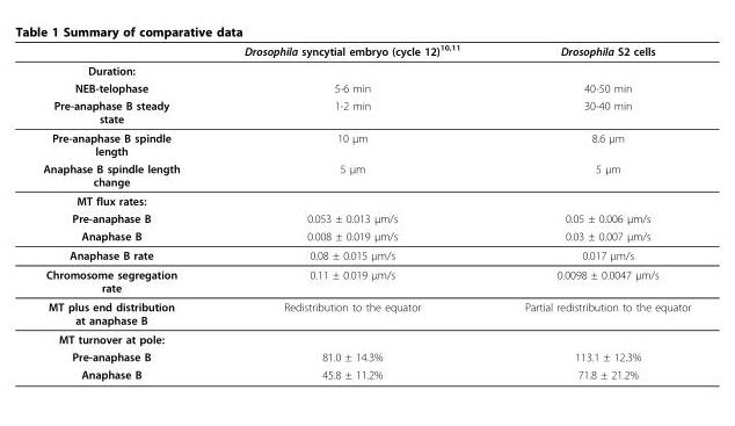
<table><thead><tr><td></td><td>Drosophila syncytial embryo (cycle 12)<sup>10,11</sup></td><td>Drosophila S2 cells</td></tr></thead><tbody><tr><td colspan="3">Duration:</td></tr><tr><td>NEB-telophase</td><td>5-6 min</td><td>40-50 min</td></tr><tr><td>Pre-anaphase B steady state</td><td>1-2 min</td><td>30-40 min</td></tr><tr><td>Pre-anaphase B spindle length</td><td>10 μm</td><td>8.6 μm</td></tr><tr><td>Anaphase B spindle length change</td><td>5 μm</td><td>5 μm</td></tr><tr><td colspan="3">MT flux rates:</td></tr><tr><td>Pre-anaphase B</td><td>0.053 ± 0.013 μm/s</td><td>0.05 ± 0.006 μm/s</td></tr><tr><td>Anaphase B</td><td>0.008 ± 0.019 μm/s</td><td>0.03 ± 0.007 μm/s</td></tr><tr><td>Anaphase B rate</td><td>0.08 ± 0.015 μm/s</td><td>0.017 μm/s</td></tr><tr><td>Chromosome segregation rate</td><td>0.11 ± 0.019 μm/s</td><td>0.0098 ± 0.0047 μm/s</td></tr><tr><td>MT plus end distribution at anaphase B</td><td>Redistribution to the equator</td><td>Partial redistribution to the equator</td></tr><tr><td colspan="3">MT turnover at pole:</td></tr><tr><td>Pre-anaphase B</td><td>81.0 ± 14.3%</td><td>113.1 ± 12.3%</td></tr><tr><td>Anaphase B</td><td>45.8 ± 11.2%</td><td>71.8 ± 21.2%</td></tr></tbody></table>